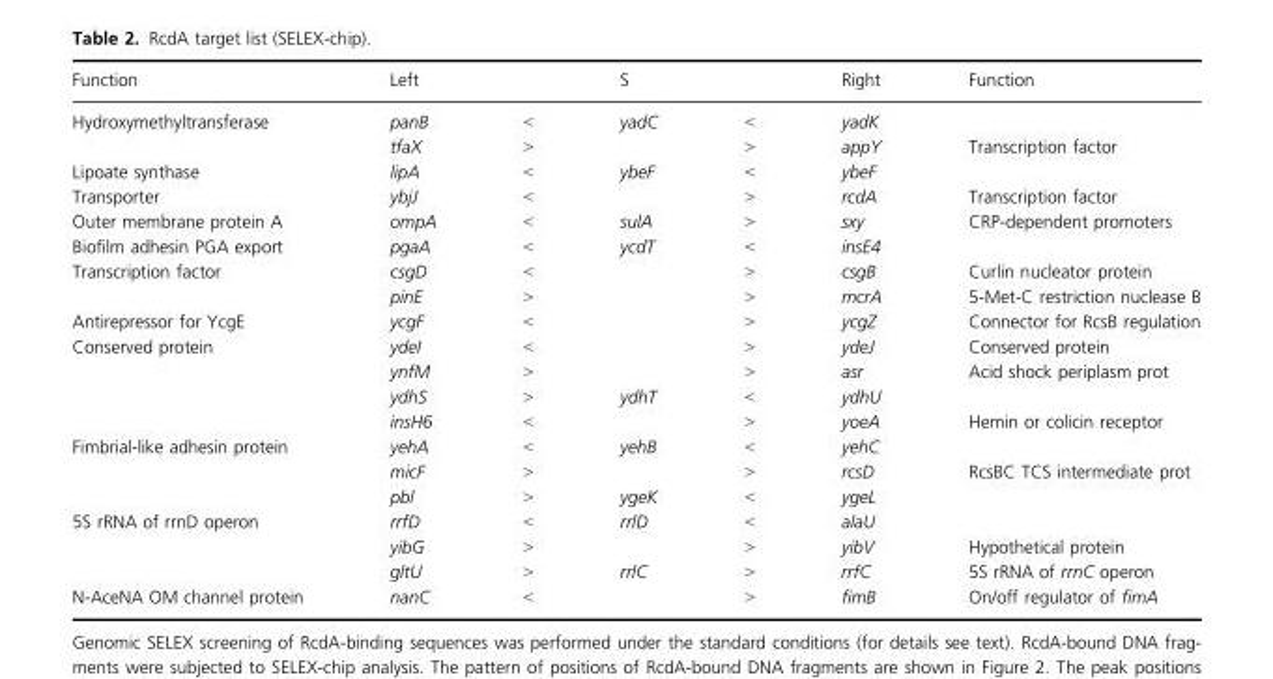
<table><thead><tr><td>Function</td><td>Left</td><td></td><td>S</td><td></td><td>Right</td><td>Function</td></tr></thead><tbody><tr><td rowspan="2">Hydroxymethyltransferase</td><td>panB</td><td>&lt;</td><td>yadC</td><td>&lt;</td><td>yadK</td><td></td></tr><tr><td>tfaX</td><td>&gt;</td><td></td><td>&gt;</td><td>appY</td><td>Transcription factor</td></tr><tr><td>Lipoate synthase</td><td>lipA</td><td>&lt;</td><td>ybeF</td><td>&lt;</td><td>ybeF</td><td></td></tr><tr><td>Transporter</td><td>ybjJ</td><td>&lt;</td><td></td><td>&gt;</td><td>rcdA</td><td>Transcription factor</td></tr><tr><td>Outer membrane protein A</td><td>ompA</td><td>&lt;</td><td>sulA</td><td>&gt;</td><td>sxy</td><td>CRP-dependent promoters</td></tr><tr><td>Biofilm adhesin PGA export</td><td>pgaA</td><td>&lt;</td><td>ycdT</td><td>&lt;</td><td>insE4</td><td></td></tr><tr><td rowspan="2">Transcription factor</td><td>csgD</td><td>&lt;</td><td></td><td>&gt;</td><td>csgB</td><td>Curlin nucleator protein</td></tr><tr><td>pinE</td><td>&gt;</td><td></td><td>&gt;</td><td>mcrA</td><td>5-Met-C restriction nuclease B</td></tr><tr><td>Antirepressor for YcgE</td><td>ycgF</td><td>&lt;</td><td></td><td>&gt;</td><td>ycgZ</td><td>Connector for RcsB regulation</td></tr><tr><td rowspan="4">Conserved protein</td><td>ydeI</td><td>&lt;</td><td></td><td>&gt;</td><td>ydeJ</td><td>Conserved protein</td></tr><tr><td>ynfM</td><td>&gt;</td><td></td><td>&gt;</td><td>asr</td><td>Acid shock periplasm prot</td></tr><tr><td>ydhS</td><td>&gt;</td><td>ydhT</td><td>&lt;</td><td>ydhU</td><td></td></tr><tr><td>insH6</td><td>&lt;</td><td></td><td>&gt;</td><td>yoeA</td><td>Hemin or colicin receptor</td></tr><tr><td rowspan="3">Fimbrial-like adhesin protein</td><td>yehA</td><td>&lt;</td><td>yehB</td><td>&lt;</td><td>yehC</td><td></td></tr><tr><td>micF</td><td>&gt;</td><td></td><td>&gt;</td><td>rcsD</td><td>RcsBC TCS intermediate prot</td></tr><tr><td>pbl</td><td>&gt;</td><td>ygeK</td><td>&lt;</td><td>ygeL</td><td></td></tr><tr><td rowspan="3">5S rRNA of rrnD operon</td><td>rrfD</td><td>&lt;</td><td>rrlD</td><td>&lt;</td><td>alaU</td><td></td></tr><tr><td>yibG</td><td>&gt;</td><td></td><td>&gt;</td><td>yibV</td><td>Hypothetical protein</td></tr><tr><td>gltU</td><td>&gt;</td><td>rrlC</td><td>&gt;</td><td>rrfC</td><td>5S rRNA of rrnC operon</td></tr><tr><td>N-AceNA OM channel protein</td><td>nanC</td><td>&lt;</td><td></td><td>&gt;</td><td>fimB</td><td>On/off regulator of fimA</td></tr></tbody></table>